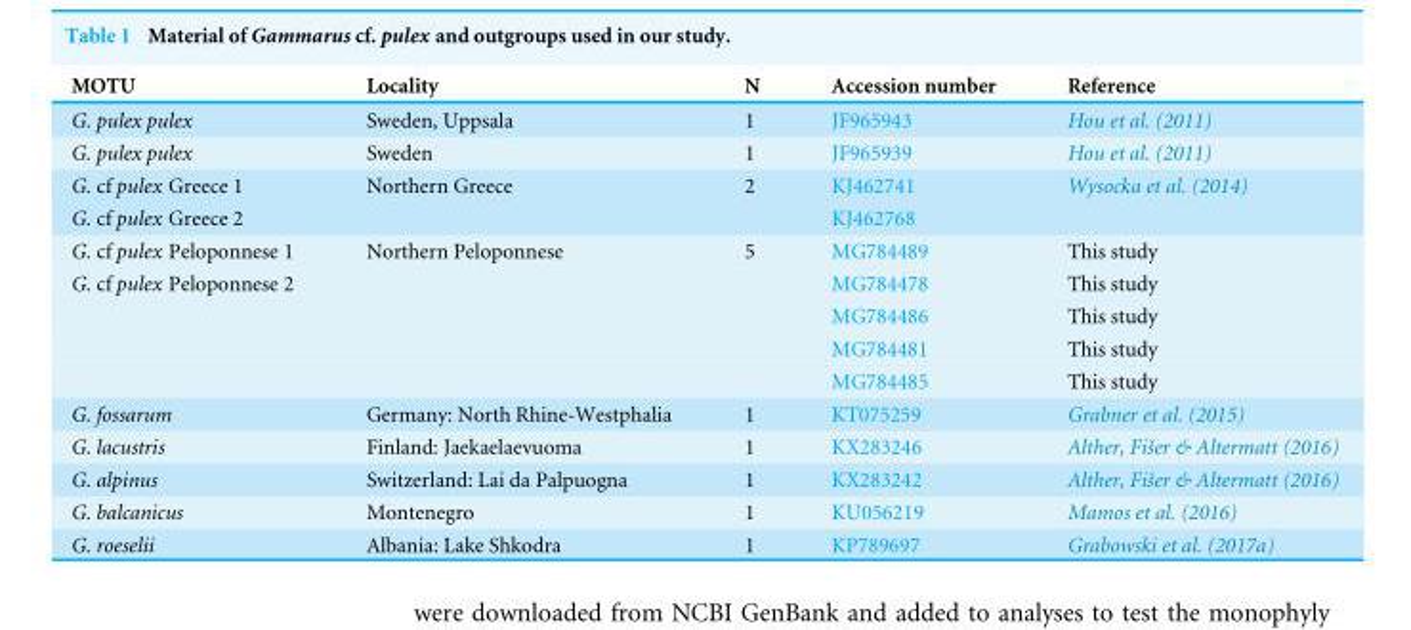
<table><thead><tr><td>MOTU</td><td>Locality</td><td>N</td><td>Accession number</td><td>Reference</td></tr></thead><tbody><tr><td>G. pulex pulex</td><td>Sweden, Uppsala</td><td>1</td><td>JF965943</td><td>Hou et al. (2011)</td></tr><tr><td>G. pulex pulex</td><td>Sweden</td><td>1</td><td>JF965939</td><td>Hou et al. (2011)</td></tr><tr><td>G. cf pulex Greece 1</td><td>Northern Greece</td><td>2</td><td>KJ462741</td><td>Wysocka et al. (2014)</td></tr><tr><td>G. cf pulex Greece 2</td><td></td><td></td><td>KJ462768</td><td></td></tr><tr><td>G. cf pulex Peloponnese 1</td><td>Northern Peloponnese</td><td>5</td><td>MG784489</td><td>This study</td></tr><tr><td rowspan="4">G. cf pulex Peloponnese 2</td><td></td><td></td><td>MG784478</td><td>This study</td></tr><tr><td></td><td></td><td>MG784486</td><td>This study</td></tr><tr><td></td><td></td><td>MG784481</td><td>This study</td></tr><tr><td></td><td></td><td>MG784485</td><td>This study</td></tr><tr><td>G. fossarum</td><td>Germany: North Rhine-Westphalia</td><td>1</td><td>KT075259</td><td>Grabner et al. (2015)</td></tr><tr><td>G. lacustris</td><td>Finland: Jaekaelaevuoma</td><td>1</td><td>KX283246</td><td>Alther, Fišer &amp; Altermatt (2016)</td></tr><tr><td>G. alpinus</td><td>Switzerland: Lai da Palpuogna</td><td>1</td><td>KX283242</td><td>Alther, Fišer &amp; Altermatt (2016)</td></tr><tr><td>G. balcanicus</td><td>Montenegro</td><td>1</td><td>KU056219</td><td>Mamos et al. (2016)</td></tr><tr><td>G. roeselii</td><td>Albania: Lake Shkodra</td><td>1</td><td>KP789697</td><td>Grabowski et al. (2017a)</td></tr></tbody></table>